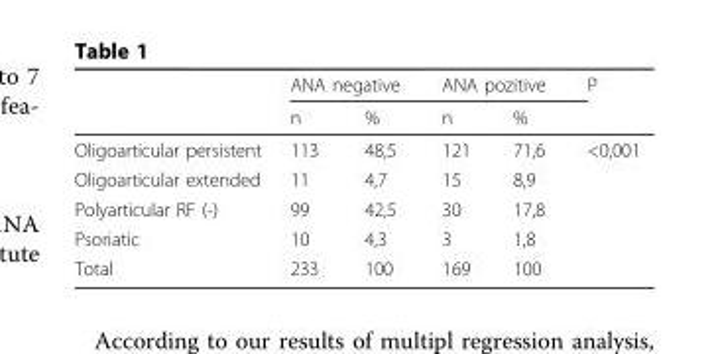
<table><thead><tr><td rowspan="2"></td><td colspan="2">ANA negative</td><td colspan="2">ANA pozitive</td><td rowspan="2">P</td></tr><tr><td>n</td><td>%</td><td>n</td><td>%</td></tr></thead><tbody><tr><td>Oligoarticular persistent</td><td>113</td><td>48,5</td><td>121</td><td>71,6</td><td>&lt;0,001</td></tr><tr><td>Oligoarticular extended</td><td>11</td><td>4,7</td><td>15</td><td>8,9</td><td></td></tr><tr><td>Polyarticular RF (-)</td><td>99</td><td>42,5</td><td>30</td><td>17,8</td><td></td></tr><tr><td>Psoriatic</td><td>10</td><td>4,3</td><td>3</td><td>1,8</td><td></td></tr><tr><td>Total</td><td>233</td><td>100</td><td>169</td><td>100</td><td></td></tr></tbody></table>